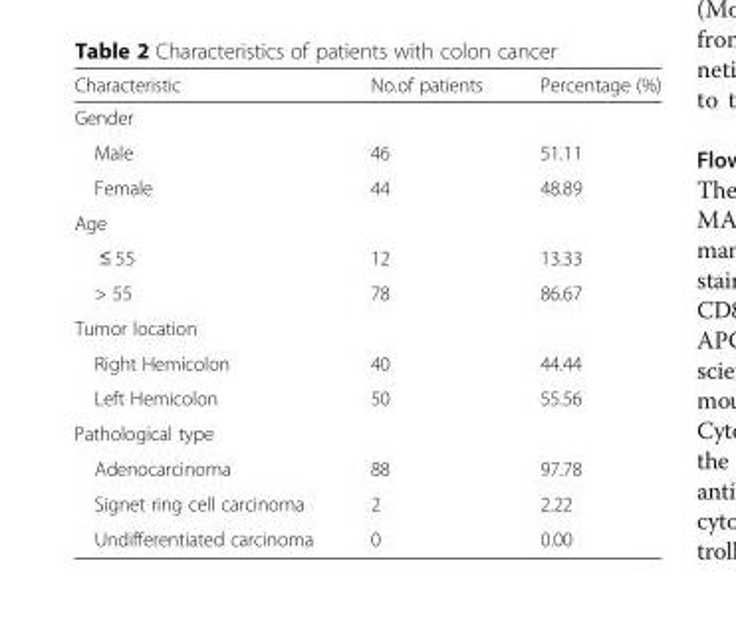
<table><thead><tr><td>Characteristic</td><td>No.of patients</td><td>Percentage (%)</td></tr></thead><tbody><tr><td colspan="3">Gender</td></tr><tr><td>Male</td><td>46</td><td>51.11</td></tr><tr><td>Female</td><td>44</td><td>48.89</td></tr><tr><td colspan="3">Age</td></tr><tr><td>≤ 55</td><td>12</td><td>13.33</td></tr><tr><td>&gt; 55</td><td>78</td><td>86.67</td></tr><tr><td colspan="3">Tumor location</td></tr><tr><td>Right Hemicolon</td><td>40</td><td>44.44</td></tr><tr><td>Left Hemicolon</td><td>50</td><td>55.56</td></tr><tr><td colspan="3">Pathological type</td></tr><tr><td>Adenocarcinoma</td><td>88</td><td>97.78</td></tr><tr><td>Signet ring cell carcinoma</td><td>2</td><td>2.22</td></tr><tr><td>Undifferentiated carcinoma</td><td>0</td><td>0.00</td></tr></tbody></table>